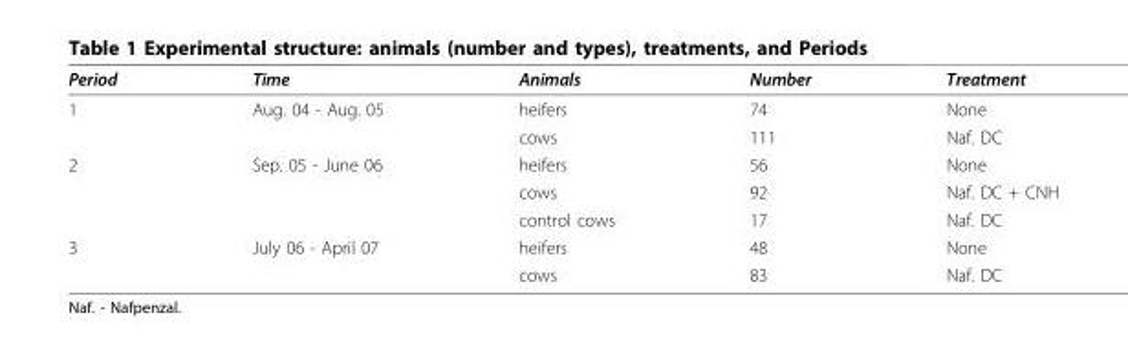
<table><thead><tr><td>Period</td><td>Time</td><td>Animals</td><td>Number</td><td>Treatment</td></tr></thead><tbody><tr><td rowspan="2">1</td><td>Aug. 04 - Aug. 05</td><td>heifers</td><td>74</td><td>None</td></tr><tr><td></td><td>cows</td><td>111</td><td>Naf. DC</td></tr><tr><td rowspan="3">2</td><td>Sep. 05 - June 06</td><td>heifers</td><td>56</td><td>None</td></tr><tr><td></td><td>cows</td><td>92</td><td>Naf. DC + CNH</td></tr><tr><td></td><td>control cows</td><td>17</td><td>Naf. DC</td></tr><tr><td rowspan="2">3</td><td>July 06 - April 07</td><td>heifers</td><td>48</td><td>None</td></tr><tr><td></td><td>cows</td><td>83</td><td>Naf. DC</td></tr></tbody></table>